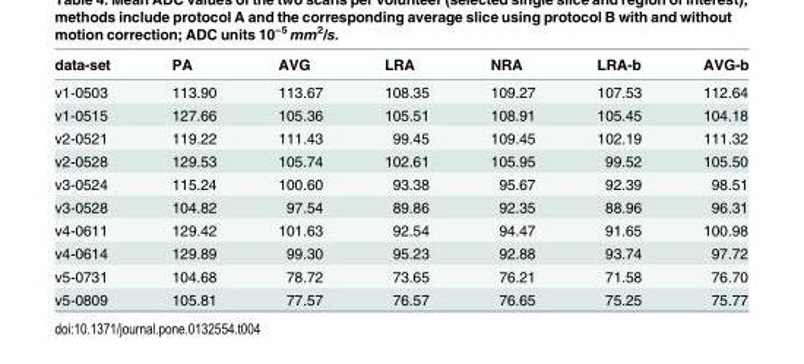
<table><thead><tr><td>data-set</td><td>PA</td><td>AVG</td><td>LRA</td><td>NRA</td><td>LRA-b</td><td>AVG-b</td></tr></thead><tbody><tr><td>v1-0503</td><td>113.90</td><td>113.67</td><td>108.35</td><td>109.27</td><td>107.53</td><td>112.64</td></tr><tr><td>v1-0515</td><td>127.66</td><td>105.36</td><td>105.51</td><td>108.91</td><td>105.45</td><td>104.18</td></tr><tr><td>v2-0521</td><td>119.22</td><td>111.43</td><td>99.45</td><td>109.45</td><td>102.19</td><td>111.32</td></tr><tr><td>v2-0528</td><td>129.53</td><td>105.74</td><td>102.61</td><td>105.95</td><td>99.52</td><td>105.50</td></tr><tr><td>v3-0524</td><td>115.24</td><td>100.60</td><td>93.38</td><td>95.67</td><td>92.39</td><td>98.51</td></tr><tr><td>v3-0528</td><td>104.82</td><td>97.54</td><td>89.86</td><td>92.35</td><td>88.96</td><td>96.31</td></tr><tr><td>v4-0611</td><td>129.42</td><td>101.63</td><td>92.54</td><td>94.47</td><td>91.65</td><td>100.98</td></tr><tr><td>v4-0614</td><td>129.89</td><td>99.30</td><td>95.23</td><td>92.88</td><td>93.74</td><td>97.72</td></tr><tr><td>v5-0731</td><td>104.68</td><td>78.72</td><td>73.65</td><td>76.21</td><td>71.58</td><td>76.70</td></tr><tr><td>v5-0809</td><td>105.81</td><td>77.57</td><td>76.57</td><td>76.65</td><td>75.25</td><td>75.77</td></tr></tbody></table>